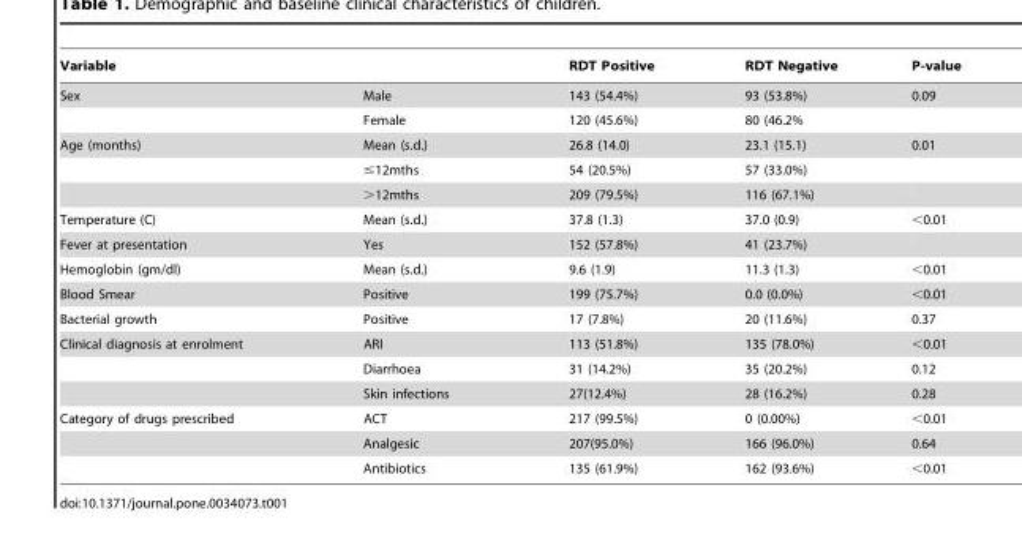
<table><thead><tr><td colspan="2">Variable</td><td rowspan="2">RDT Positive 143 (54.4%)</td><td rowspan="2">RDT Negative 93 (53.8%)</td><td rowspan="2">P-value 0.09</td></tr><tr><td>Sex</td><td>Male</td></tr></thead><tbody><tr><td></td><td>Female</td><td>120 (45.6%)</td><td>80 (46.2%</td><td></td></tr><tr><td rowspan="3">Age (months)</td><td>Mean (s.d.)</td><td>26.8 (14.0)</td><td>23.1 (15.1)</td><td>0.01</td></tr><tr><td>≤12mths</td><td>54 (20.5%)</td><td>57 (33.0%)</td><td></td></tr><tr><td>&gt;12mths</td><td>209 (79.5%)</td><td>116 (67.1%)</td><td></td></tr><tr><td>Temperature (C)</td><td>Mean (s.d.)</td><td>37.8 (1.3)</td><td>37.0 (0.9)</td><td>&lt;0.01</td></tr><tr><td>Fever at presentation</td><td>Yes</td><td>152 (57.8%)</td><td>41 (23.7%)</td><td></td></tr><tr><td>Hemoglobin (gm/dl)</td><td>Mean (s.d.)</td><td>9.6 (1.9)</td><td>11.3 (1.3)</td><td>&lt;0.01</td></tr><tr><td>Blood Smear</td><td>Positive</td><td>199 (75.7%)</td><td>0.0 (0.0%)</td><td>&lt;0.01</td></tr><tr><td>Bacterial growth</td><td>Positive</td><td>17 (7.8%)</td><td>20 (11.6%)</td><td>0.37</td></tr><tr><td rowspan="3">Clinical diagnosis at enrolment</td><td>ARI</td><td>113 (51.8%)</td><td>135 (78.0%)</td><td>&lt;0.01</td></tr><tr><td>Diarrhoea</td><td>31 (14.2%)</td><td>35 (20.2%)</td><td>0.12</td></tr><tr><td>Skin infections</td><td>27(12.4%)</td><td>28 (16.2%)</td><td>0.28</td></tr><tr><td rowspan="3">Category of drugs prescribed</td><td>ACT</td><td>217 (99.5%)</td><td>0 (0.00%)</td><td>&lt;0.01</td></tr><tr><td>Analgesic</td><td>207(95.0%)</td><td>166 (96.0%)</td><td>0.64</td></tr><tr><td>Antibiotics</td><td>135 (61.9%)</td><td>162 (93.6%)</td><td>&lt;0.01</td></tr></tbody></table>